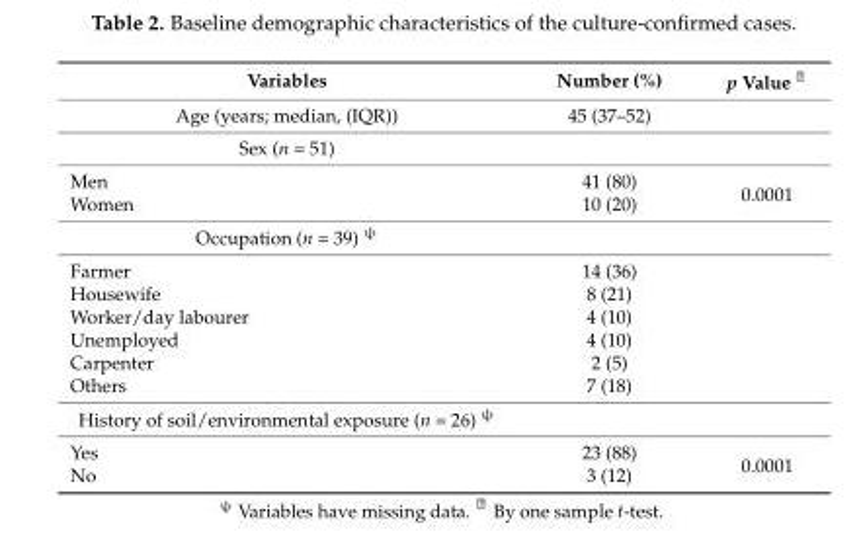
<table><thead><tr><td>Variables</td><td>Number (%)</td><td>p Value</td></tr></thead><tbody><tr><td>Age (years; median, (IQR))</td><td>45 (37–52)</td><td></td></tr><tr><td colspan="3">Sex (n = 51)</td></tr><tr><td>Men</td><td>41 (80)</td><td rowspan="2">0.0001</td></tr><tr><td>Women</td><td>10 (20)</td></tr><tr><td colspan="3">Occupation (n = 39) <sup>ψ</sup></td></tr><tr><td>Farmer</td><td>14 (36)</td><td></td></tr><tr><td>Housewife</td><td>8 (21)</td><td></td></tr><tr><td>Worker/day labourer</td><td>4 (10)</td><td></td></tr><tr><td>Unemployed</td><td>4 (10)</td><td></td></tr><tr><td>Carpenter</td><td>2 (5)</td><td></td></tr><tr><td>Others</td><td>7 (18)</td><td></td></tr><tr><td colspan="3">History of soil/environmental exposure (n = 26) <sup>ψ</sup></td></tr><tr><td>Yes</td><td>23 (88)</td><td rowspan="2">0.0001</td></tr><tr><td>No</td><td>3 (12)</td></tr></tbody></table>